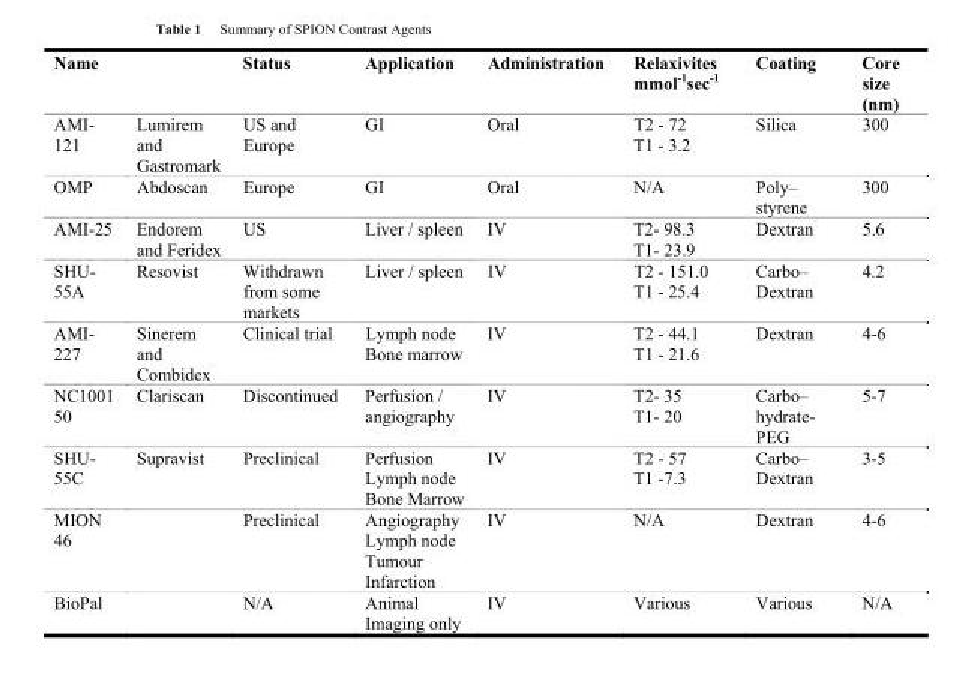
<table><thead><tr><td>Name</td><td></td><td>Status</td><td>Application</td><td>Administration</td><td>Relaxivites mmol<sup>-1</sup>sec<sup>-1</sup></td><td>Coating</td><td>Core size (nm)</td></tr></thead><tbody><tr><td>AMI- 121</td><td>Lumirem and Gastromark</td><td>US and Europe</td><td>GI</td><td>Oral</td><td>T2 - 72 T1 - 3.2</td><td>Silica</td><td>300</td></tr><tr><td>OMP</td><td>Abdoscan</td><td>Europe</td><td>GI</td><td>Oral</td><td>N/A</td><td>Poly– styrene</td><td>300</td></tr><tr><td>AMI-25</td><td>Endorem and Feridex</td><td>US</td><td>Liver / spleen</td><td>IV</td><td>T2- 98.3 T1- 23.9</td><td>Dextran</td><td>5.6</td></tr><tr><td>SHU- 55A</td><td>Resovist</td><td>Withdrawn from some markets</td><td>Liver / spleen</td><td>IV</td><td>T2 - 151.0 T1 - 25.4</td><td>Carbo– Dextran</td><td>4.2</td></tr><tr><td>AMI- 227</td><td>Sinerem and Combidex</td><td>Clinical trial</td><td>Lymph node Bone marrow</td><td>IV</td><td>T2 - 44.1 T1 - 21.6</td><td>Dextran</td><td>4-6</td></tr><tr><td>NC1001 50</td><td>Clariscan</td><td>Discontinued</td><td>Perfusion / angiography</td><td>IV</td><td>T2- 35 T1- 20</td><td>Carbo– hydrate- PEG</td><td>5-7</td></tr><tr><td>SHU- 55C</td><td>Supravist</td><td>Preclinical</td><td>Perfusion Lymph node Bone Marrow</td><td>IV</td><td>T2 - 57 T1 -7.3</td><td>Carbo– Dextran</td><td>3-5</td></tr><tr><td>MION 46</td><td></td><td>Preclinical</td><td>Angiography Lymph node Tumour Infarction</td><td>IV</td><td>N/A</td><td>Dextran</td><td>4-6</td></tr><tr><td>BioPal</td><td></td><td>N/A</td><td>Animal Imaging only</td><td>IV</td><td>Various</td><td>Various</td><td>N/A</td></tr></tbody></table>